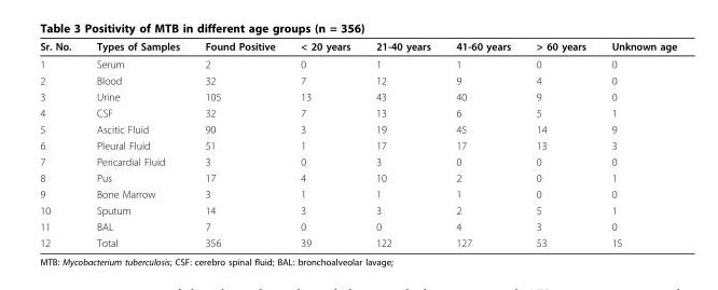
<table><thead><tr><td>Sr. No.</td><td>Types of Samples</td><td>Found Positive</td><td>&lt; 20 years</td><td>21-40 years</td><td>41-60 years</td><td>&gt; 60 years</td><td>Unknown age</td></tr></thead><tbody><tr><td>1</td><td>Serum</td><td>2</td><td>0</td><td>1</td><td>1</td><td>0</td><td>0</td></tr><tr><td>2</td><td>Blood</td><td>32</td><td>7</td><td>12</td><td>9</td><td>4</td><td>0</td></tr><tr><td>3</td><td>Urine</td><td>105</td><td>13</td><td>43</td><td>40</td><td>9</td><td>0</td></tr><tr><td>4</td><td>CSF</td><td>32</td><td>7</td><td>13</td><td>6</td><td>5</td><td>1</td></tr><tr><td>5</td><td>Ascitic Fluid</td><td>90</td><td>3</td><td>19</td><td>45</td><td>14</td><td>9</td></tr><tr><td>6</td><td>Pleural Fluid</td><td>51</td><td>1</td><td>17</td><td>17</td><td>13</td><td>3</td></tr><tr><td>7</td><td>Pericardial Fluid</td><td>3</td><td>0</td><td>3</td><td>0</td><td>0</td><td>0</td></tr><tr><td>8</td><td>Pus</td><td>17</td><td>4</td><td>10</td><td>2</td><td>0</td><td>1</td></tr><tr><td>9</td><td>Bone Marrow</td><td>3</td><td>1</td><td>1</td><td>1</td><td>0</td><td>0</td></tr><tr><td>10</td><td>Sputum</td><td>14</td><td>3</td><td>3</td><td>2</td><td>5</td><td>1</td></tr><tr><td>11</td><td>BAL</td><td>7</td><td>0</td><td>0</td><td>4</td><td>3</td><td>0</td></tr><tr><td>12</td><td>Total</td><td>356</td><td>39</td><td>122</td><td>127</td><td>53</td><td>15</td></tr></tbody></table>